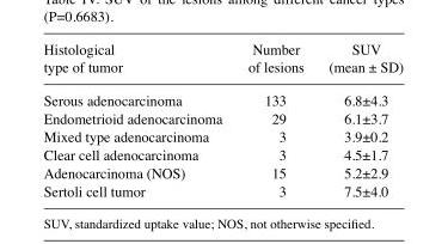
<table><thead><tr><td>Histological type of tumor</td><td>Number of lesions</td><td>SUV (mean ± SD)</td></tr></thead><tbody><tr><td>Serous adenocarcinoma</td><td>133</td><td>6.8±4.3</td></tr><tr><td>Endometrioid adenocarcinoma</td><td>29</td><td>6.1±3.7</td></tr><tr><td>Mixed type adenocarcinoma</td><td>3</td><td>3.9±0.2</td></tr><tr><td>Clear cell adenocarcinoma</td><td>3</td><td>4.5±1.7</td></tr><tr><td>Adenocarcinoma (NOS)</td><td>15</td><td>5.2±2.9</td></tr><tr><td>Sertoli cell tumor</td><td>3</td><td>7.5±4.0</td></tr></tbody></table>